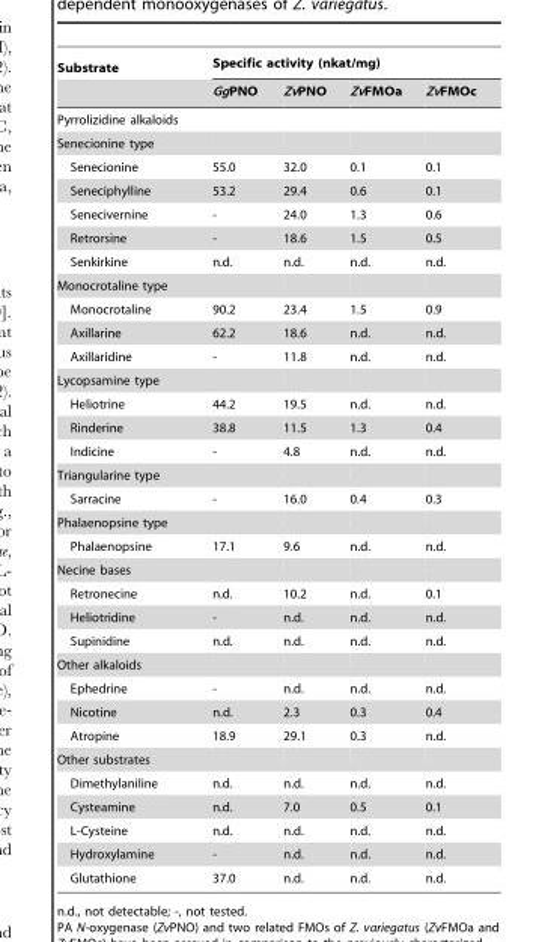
<table><thead><tr><td rowspan="2">Substrate</td><td colspan="4">Specific activity (nkat/mg)</td></tr><tr><td>GgPNO</td><td>ZvPNO</td><td>ZvFMOa</td><td>ZvFMOc</td></tr></thead><tbody><tr><td colspan="5">Pyrrolizidine alkaloids</td></tr><tr><td colspan="5">Senecionine type</td></tr><tr><td>Senecionine</td><td>55.0</td><td>32.0</td><td>0.1</td><td>0.1</td></tr><tr><td>Seneciphylline</td><td>53.2</td><td>29.4</td><td>0.6</td><td>0.1</td></tr><tr><td>Senecivernine</td><td>-</td><td>24.0</td><td>1.3</td><td>0.6</td></tr><tr><td>Retrorsine</td><td>-</td><td>18.6</td><td>1.5</td><td>0.5</td></tr><tr><td>Senkirkine</td><td>n.d.</td><td>n.d.</td><td>n.d.</td><td>n.d.</td></tr><tr><td colspan="5">Monocrotaline type</td></tr><tr><td>Monocrotaline</td><td>90.2</td><td>23.4</td><td>1.5</td><td>0.9</td></tr><tr><td>Axillarine</td><td>62.2</td><td>18.6</td><td>n.d.</td><td>n.d.</td></tr><tr><td>Axillaridine</td><td>-</td><td>11.8</td><td>n.d.</td><td>n.d.</td></tr><tr><td colspan="5">Lycopsamine type</td></tr><tr><td>Heliotrine</td><td>44.2</td><td>19.5</td><td>n.d.</td><td>n.d.</td></tr><tr><td>Rinderine</td><td>38.8</td><td>11.5</td><td>1.3</td><td>0.4</td></tr><tr><td>Indicine</td><td>-</td><td>4.8</td><td>n.d.</td><td>n.d.</td></tr><tr><td colspan="5">Triangularine type</td></tr><tr><td>Sarracine</td><td>-</td><td>16.0</td><td>0.4</td><td>0.3</td></tr><tr><td colspan="5">Phalaenopsine type</td></tr><tr><td>Phalaenopsine</td><td>17.1</td><td>9.6</td><td>n.d.</td><td>n.d.</td></tr><tr><td colspan="5">Necine bases</td></tr><tr><td>Retronecine</td><td>n.d.</td><td>10.2</td><td>n.d.</td><td>0.1</td></tr><tr><td>Heliotridine</td><td>-</td><td>n.d.</td><td>n.d.</td><td>n.d.</td></tr><tr><td>Supinidine</td><td>n.d.</td><td>n.d.</td><td>n.d.</td><td>n.d.</td></tr><tr><td colspan="5">Other alkaloids</td></tr><tr><td>Ephedrine</td><td>-</td><td>n.d.</td><td>n.d.</td><td>n.d.</td></tr><tr><td>Nicotine</td><td>n.d.</td><td>2.3</td><td>0.3</td><td>0.4</td></tr><tr><td>Atropine</td><td>18.9</td><td>29.1</td><td>0.3</td><td>n.d.</td></tr><tr><td colspan="5">Other substrates</td></tr><tr><td>Dimethylaniline</td><td>n.d.</td><td>n.d.</td><td>n.d.</td><td>n.d.</td></tr><tr><td>Cysteamine</td><td>n.d.</td><td>7.0</td><td>0.5</td><td>0.1</td></tr><tr><td>L-Cysteine</td><td>n.d.</td><td>n.d.</td><td>n.d.</td><td>n.d.</td></tr><tr><td>Hydroxylamine</td><td>-</td><td>n.d.</td><td>n.d.</td><td>n.d.</td></tr><tr><td>Glutathione</td><td>37.0</td><td>n.d.</td><td>n.d.</td><td>n.d.</td></tr></tbody></table>